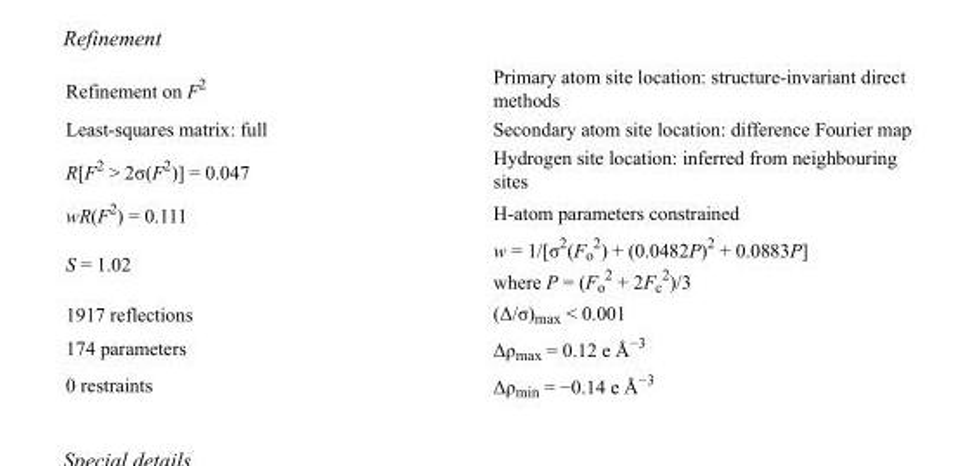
<table><tbody><tr><td>Refinement on F<sup>2</sup></td><td>Primary atom site location: structure-invariant direct methods</td></tr><tr><td>Least-squares matrix: full</td><td>Secondary atom site location: difference Fourier map</td></tr><tr><td>R[F<sup>2</sup> &gt; 2σ(F<sup>2</sup>)] = 0.047</td><td>Hydrogen site location: inferred from neighbouring sites</td></tr><tr><td>wR(F<sup>2</sup>) = 0.111</td><td>H-atom parameters constrained</td></tr><tr><td>S = 1.02</td><td>w = 1/[σ<sup>2</sup>(F<sub>o</sub> <sup>2</sup>) + (0.0482P)<sup>2</sup> + 0.0883P] where P = (F<sub>o</sub> <sup>2</sup> + 2F<sub>c</sub> <sup>2</sup>)/3</td></tr><tr><td>1917 reflections</td><td>(Δ/σ)<sub>max</sub> &lt; 0.001</td></tr><tr><td>174 parameters</td><td>Δρ<sub>max</sub> = 0.12 e Å<sup>−3</sup></td></tr><tr><td>0 restraints</td><td>Δρ<sub>min</sub> = −0.14 e Å<sup>−3</sup></td></tr></tbody></table>